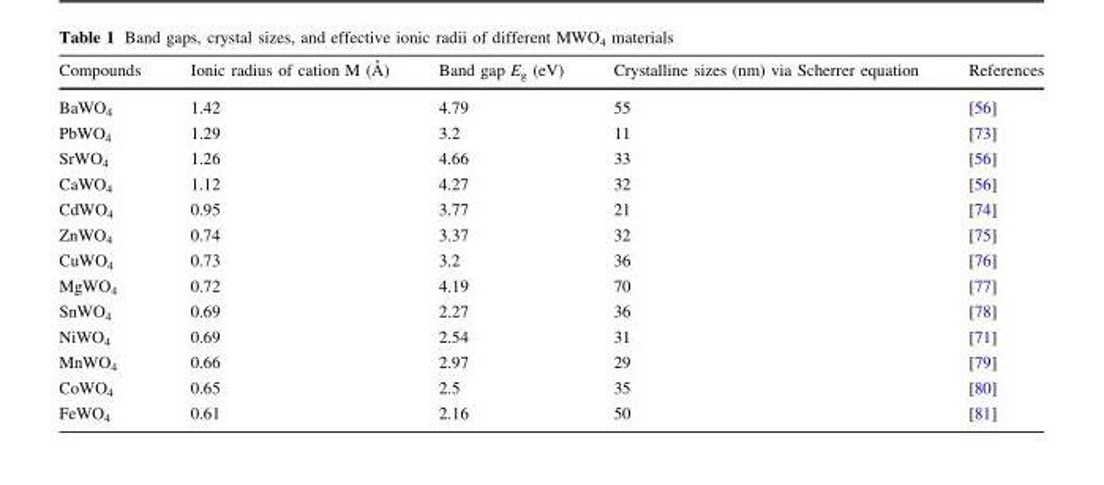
<table><thead><tr><td>Compounds</td><td>Ionic radius of cation M (A˚ )</td><td>Band gap E<sub>g</sub> (eV)</td><td>Crystalline sizes (nm) via Scherrer equation</td><td>References</td></tr></thead><tbody><tr><td>BaWO<sub>4</sub></td><td>1.42</td><td>4.79</td><td>55</td><td>[56]</td></tr><tr><td>PbWO<sub>4</sub></td><td>1.29</td><td>3.2</td><td>11</td><td>[73]</td></tr><tr><td>SrWO<sub>4</sub></td><td>1.26</td><td>4.66</td><td>33</td><td>[56]</td></tr><tr><td>CaWO<sub>4</sub></td><td>1.12</td><td>4.27</td><td>32</td><td>[56]</td></tr><tr><td>CdWO<sub>4</sub></td><td>0.95</td><td>3.77</td><td>21</td><td>[74]</td></tr><tr><td>ZnWO<sub>4</sub></td><td>0.74</td><td>3.37</td><td>32</td><td>[75]</td></tr><tr><td>CuWO<sub>4</sub></td><td>0.73</td><td>3.2</td><td>36</td><td>[76]</td></tr><tr><td>MgWO<sub>4</sub></td><td>0.72</td><td>4.19</td><td>70</td><td>[77]</td></tr><tr><td>SnWO<sub>4</sub></td><td>0.69</td><td>2.27</td><td>36</td><td>[78]</td></tr><tr><td>NiWO<sub>4</sub></td><td>0.69</td><td>2.54</td><td>31</td><td>[71]</td></tr><tr><td>MnWO<sub>4</sub></td><td>0.66</td><td>2.97</td><td>29</td><td>[79]</td></tr><tr><td>CoWO<sub>4</sub></td><td>0.65</td><td>2.5</td><td>35</td><td>[80]</td></tr><tr><td>FeWO<sub>4</sub></td><td>0.61</td><td>2.16</td><td>50</td><td>[81]</td></tr></tbody></table>